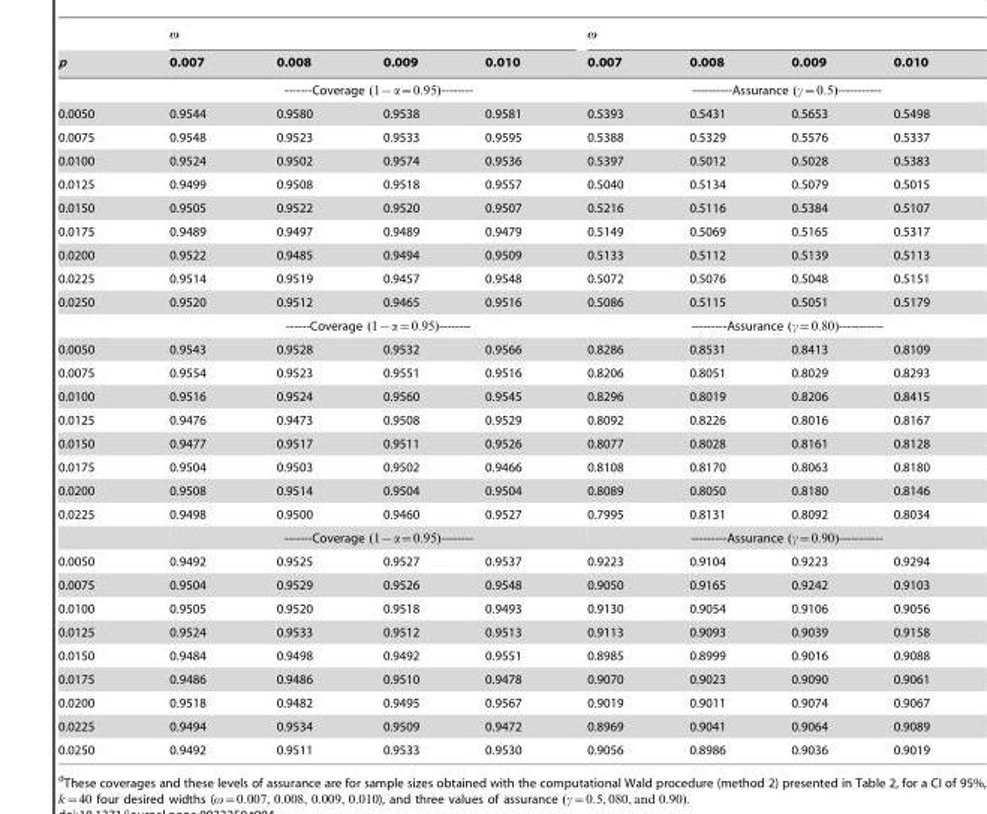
<table><thead><tr><td>p</td><td>0.007</td><td>0.008</td><td>0.009</td><td>0.010</td><td>0.007</td><td>0.008</td><td>0.009</td><td>0.010</td></tr></thead><tbody><tr><td></td><td colspan="4">-------Coverage (1{a~0:95)--------</td><td colspan="4">----------Assurance (c~0:5)-----------</td></tr><tr><td>0.0050</td><td>0.9544</td><td>0.9580</td><td>0.9538</td><td>0.9581</td><td>0.5393</td><td>0.5431</td><td>0.5653</td><td>0.5498</td></tr><tr><td>0.0075</td><td>0.9548</td><td>0.9523</td><td>0.9533</td><td>0.9595</td><td>0.5388</td><td>0.5329</td><td>0.5576</td><td>0.5337</td></tr><tr><td>0.0100</td><td>0.9524</td><td>0.9502</td><td>0.9574</td><td>0.9536</td><td>0.5397</td><td>0.5012</td><td>0.5028</td><td>0.5383</td></tr><tr><td>0.0125</td><td>0.9499</td><td>0.9508</td><td>0.9518</td><td>0.9557</td><td>0.5040</td><td>0.5134</td><td>0.5079</td><td>0.5015</td></tr><tr><td>0.0150</td><td>0.9505</td><td>0.9522</td><td>0.9520</td><td>0.9507</td><td>0.5216</td><td>0.5116</td><td>0.5384</td><td>0.5107</td></tr><tr><td>0.0175</td><td>0.9489</td><td>0.9497</td><td>0.9489</td><td>0.9479</td><td>0.5149</td><td>0.5069</td><td>0.5165</td><td>0.5317</td></tr><tr><td>0.0200</td><td>0.9522</td><td>0.9485</td><td>0.9494</td><td>0.9509</td><td>0.5133</td><td>0.5112</td><td>0.5139</td><td>0.5113</td></tr><tr><td>0.0225</td><td>0.9514</td><td>0.9519</td><td>0.9457</td><td>0.9548</td><td>0.5072</td><td>0.5076</td><td>0.5048</td><td>0.5151</td></tr><tr><td rowspan="2">0.0250</td><td>0.9520</td><td>0.9512</td><td>0.9465</td><td>0.9516</td><td>0.5086</td><td>0.5115</td><td>0.5051</td><td>0.5179</td></tr><tr><td colspan="4">------Coverage (1{a~0:95)--------</td><td colspan="4">---------Assurance (c~0:80)-----------</td></tr><tr><td>0.0050</td><td>0.9543</td><td>0.9528</td><td>0.9532</td><td>0.9566</td><td>0.8286</td><td>0.8531</td><td>0.8413</td><td>0.8109</td></tr><tr><td>0.0075</td><td>0.9554</td><td>0.9523</td><td>0.9551</td><td>0.9516</td><td>0.8206</td><td>0.8051</td><td>0.8029</td><td>0.8293</td></tr><tr><td>0.0100</td><td>0.9516</td><td>0.9524</td><td>0.9560</td><td>0.9545</td><td>0.8296</td><td>0.8019</td><td>0.8206</td><td>0.8415</td></tr><tr><td>0.0125</td><td>0.9476</td><td>0.9473</td><td>0.9508</td><td>0.9529</td><td>0.8092</td><td>0.8226</td><td>0.8016</td><td>0.8167</td></tr><tr><td>0.0150</td><td>0.9477</td><td>0.9517</td><td>0.9511</td><td>0.9526</td><td>0.8077</td><td>0.8028</td><td>0.8161</td><td>0.8128</td></tr><tr><td>0.0175</td><td>0.9504</td><td>0.9503</td><td>0.9502</td><td>0.9466</td><td>0.8108</td><td>0.8170</td><td>0.8063</td><td>0.8180</td></tr><tr><td>0.0200</td><td>0.9508</td><td>0.9514</td><td>0.9504</td><td>0.9504</td><td>0.8089</td><td>0.8050</td><td>0.8180</td><td>0.8146</td></tr><tr><td rowspan="2">0.0225</td><td>0.9498</td><td>0.9500</td><td>0.9460</td><td>0.9527</td><td>0.7995</td><td>0.8131</td><td>0.8092</td><td>0.8034</td></tr><tr><td colspan="4">-------Coverage (1{a~0:95)--------</td><td colspan="4">---------Assurance (c~0:90)-----------</td></tr><tr><td>0.0050</td><td>0.9492</td><td>0.9525</td><td>0.9527</td><td>0.9537</td><td>0.9223</td><td>0.9104</td><td>0.9223</td><td>0.9294</td></tr><tr><td>0.0075</td><td>0.9504</td><td>0.9529</td><td>0.9526</td><td>0.9548</td><td>0.9050</td><td>0.9165</td><td>0.9242</td><td>0.9103</td></tr><tr><td>0.0100</td><td>0.9505</td><td>0.9520</td><td>0.9518</td><td>0.9493</td><td>0.9130</td><td>0.9054</td><td>0.9106</td><td>0.9056</td></tr><tr><td>0.0125</td><td>0.9524</td><td>0.9533</td><td>0.9512</td><td>0.9513</td><td>0.9113</td><td>0.9093</td><td>0.9039</td><td>0.9158</td></tr><tr><td>0.0150</td><td>0.9484</td><td>0.9498</td><td>0.9492</td><td>0.9551</td><td>0.8985</td><td>0.8999</td><td>0.9016</td><td>0.9088</td></tr><tr><td>0.0175</td><td>0.9486</td><td>0.9486</td><td>0.9510</td><td>0.9478</td><td>0.9070</td><td>0.9023</td><td>0.9090</td><td>0.9061</td></tr><tr><td>0.0200</td><td>0.9518</td><td>0.9482</td><td>0.9495</td><td>0.9567</td><td>0.9019</td><td>0.9011</td><td>0.9074</td><td>0.9067</td></tr><tr><td>0.0225</td><td>0.9494</td><td>0.9534</td><td>0.9509</td><td>0.9472</td><td>0.8969</td><td>0.9041</td><td>0.9064</td><td>0.9089</td></tr><tr><td>0.0250</td><td>0.9492</td><td>0.9511</td><td>0.9533</td><td>0.9530</td><td>0.9056</td><td>0.8986</td><td>0.9036</td><td>0.9019</td></tr></tbody></table>